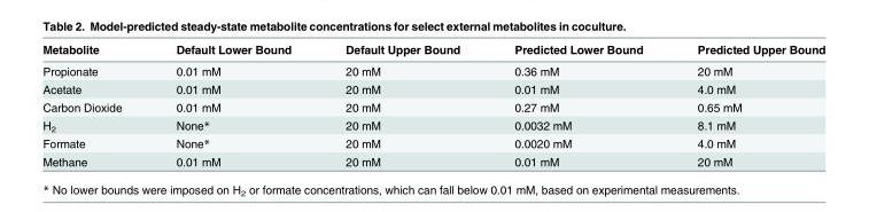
<table><thead><tr><td>Metabolite</td><td>Default Lower Bound</td><td>Default Upper Bound</td><td>Predicted Lower Bound</td><td>Predicted Upper Bound</td></tr></thead><tbody><tr><td>Propionate</td><td>0.01 mM</td><td>20 mM</td><td>0.36 mM</td><td>20 mM</td></tr><tr><td>Acetate</td><td>0.01 mM</td><td>20 mM</td><td>0.01 mM</td><td>4.0 mM</td></tr><tr><td>Carbon Dioxide</td><td>0.01 mM</td><td>20 mM</td><td>0.27 mM</td><td>0.65 mM</td></tr><tr><td>H<sub>2</sub></td><td>None*</td><td>20 mM</td><td>0.0032 mM</td><td>8.1 mM</td></tr><tr><td>Formate</td><td>None*</td><td>20 mM</td><td>0.0020 mM</td><td>4.0 mM</td></tr><tr><td>Methane</td><td>0.01 mM</td><td>20 mM</td><td>0.01 mM</td><td>20 mM</td></tr></tbody></table>